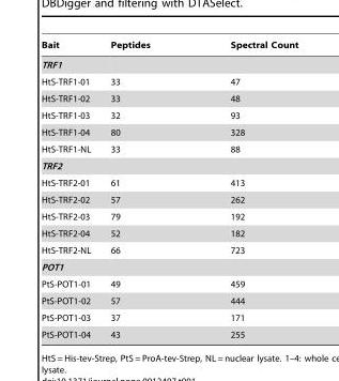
<table><thead><tr><td>Bait</td><td>Peptides</td><td>Spectral Count</td></tr></thead><tbody><tr><td colspan="3">TRF1</td></tr><tr><td>HtS-TRF1-01</td><td>33</td><td>47</td></tr><tr><td>HtS-TRF1-02</td><td>33</td><td>48</td></tr><tr><td>HtS-TRF1-03</td><td>32</td><td>93</td></tr><tr><td>HtS-TRF1-04</td><td>80</td><td>328</td></tr><tr><td>HtS-TRF1-NL</td><td>33</td><td>88</td></tr><tr><td colspan="3">TRF2</td></tr><tr><td>HtS-TRF2-01</td><td>61</td><td>413</td></tr><tr><td>HtS-TRF2-02</td><td>57</td><td>262</td></tr><tr><td>HtS-TRF2-03</td><td>79</td><td>192</td></tr><tr><td>HtS-TRF2-04</td><td>52</td><td>182</td></tr><tr><td>HtS-TRF2-NL</td><td>66</td><td>723</td></tr><tr><td colspan="3">POT1</td></tr><tr><td>PtS-POT1-01</td><td>49</td><td>459</td></tr><tr><td>PtS-POT1-02</td><td>57</td><td>444</td></tr><tr><td>PtS-POT1-03</td><td>37</td><td>171</td></tr><tr><td>PtS-POT1-04</td><td>43</td><td>255</td></tr></tbody></table>